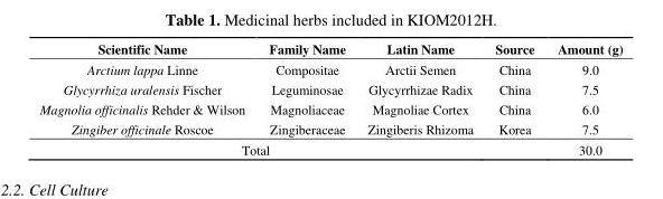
<table><thead><tr><td>Scientific Name</td><td>Family Name</td><td>Latin Name</td><td>Source</td><td>Amount (g)</td></tr></thead><tbody><tr><td>Arctium lappa Linne</td><td>Compositae</td><td>Arctii Semen</td><td>China</td><td>9.0</td></tr><tr><td>Glycyrrhiza uralensis Fischer</td><td>Leguminosae</td><td>Glycyrrhizae Radix</td><td>China</td><td>7.5</td></tr><tr><td>Magnolia officinalis Rehder &amp; Wilson</td><td>Magnoliaceae</td><td>Magnoliae Cortex</td><td>China</td><td>6.0</td></tr><tr><td>Zingiber officinale Roscoe</td><td>Zingiberaceae</td><td>Zingiberis Rhizoma</td><td>Korea</td><td>7.5</td></tr><tr><td colspan="3">Total</td><td></td><td>30.0</td></tr></tbody></table>